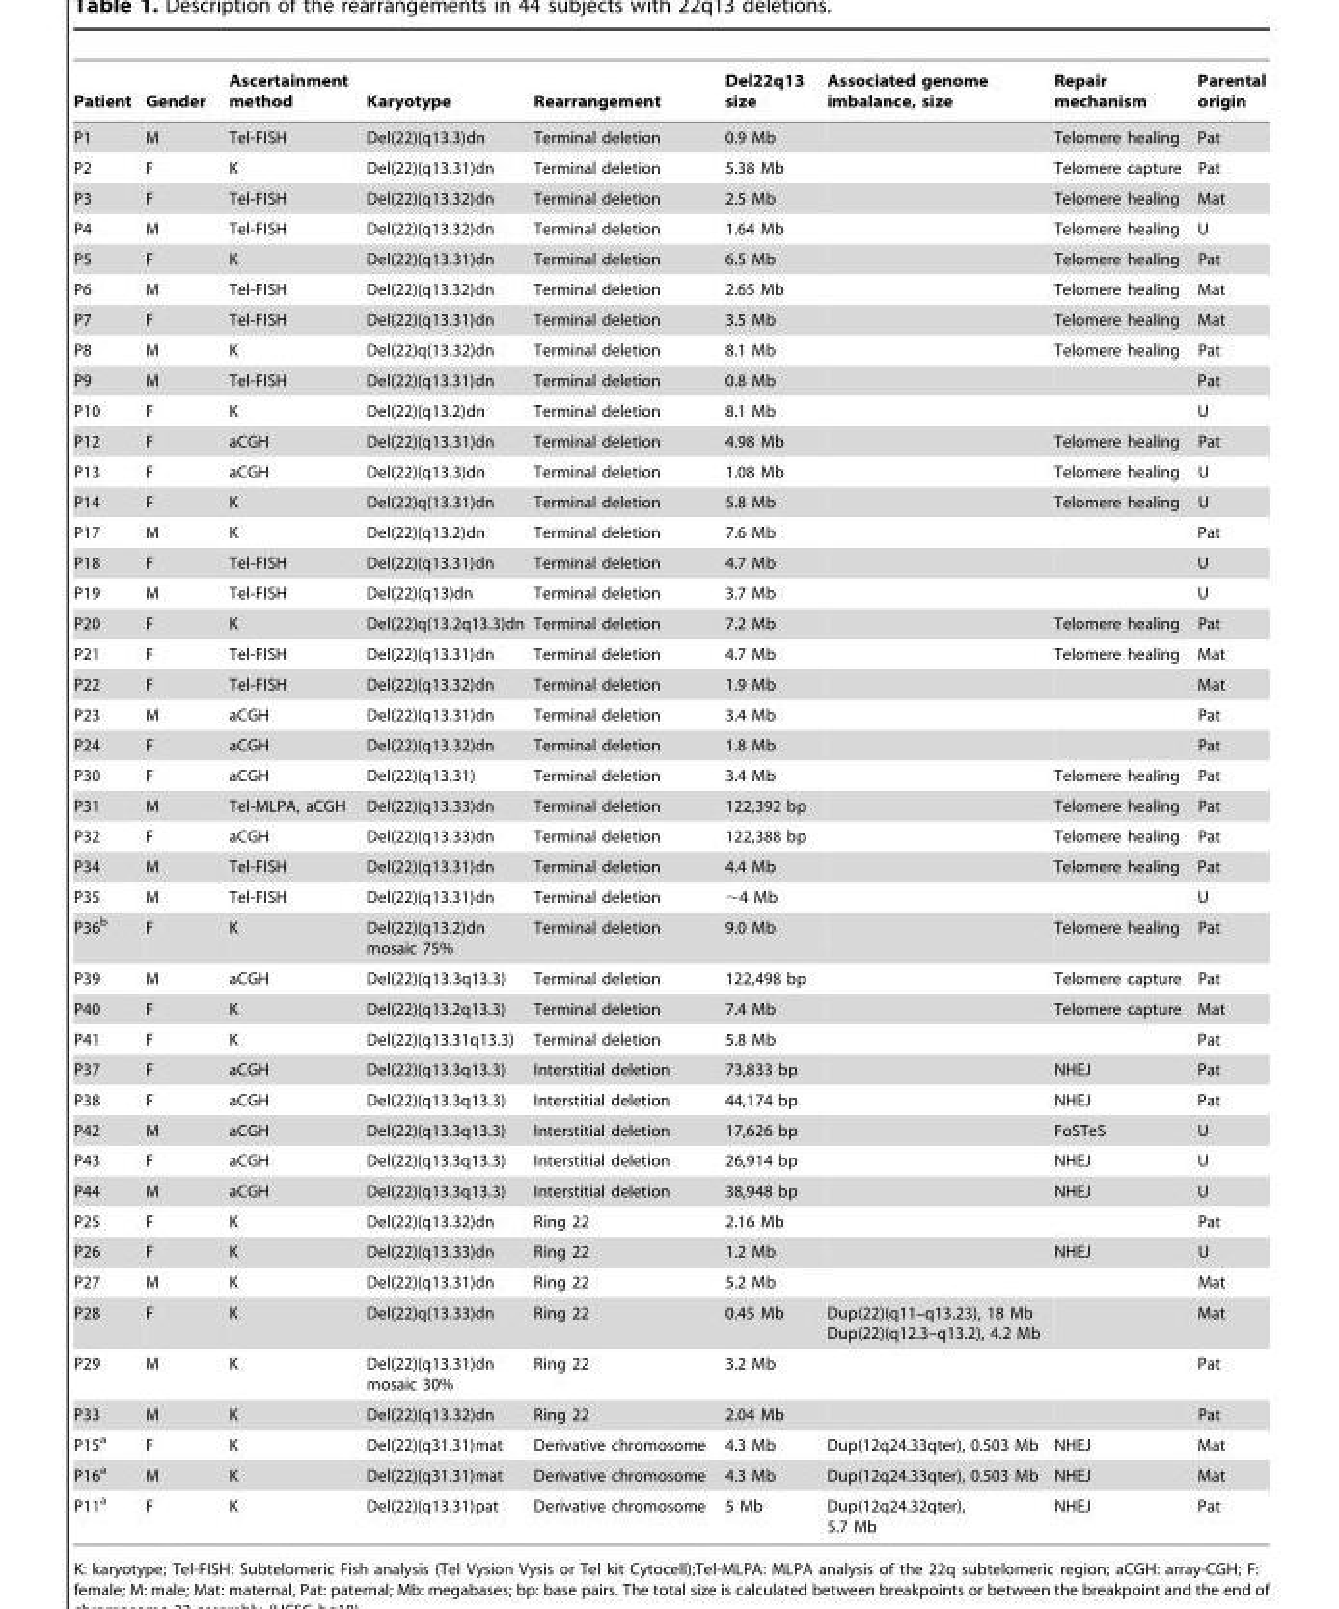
<table><thead><tr><td>Patient</td><td>Gender</td><td>Ascertainment method</td><td>Karyotype</td><td>Rearrangement</td><td>Del22q13 size</td><td>Associated genome imbalance, size</td><td>Repair mechanism</td><td>Parental origin</td></tr></thead><tbody><tr><td>P1</td><td>M</td><td>Tel-FISH</td><td>Del(22)(q13.3)dn</td><td>Terminal deletion</td><td>0.9 Mb</td><td></td><td>Telomere healing</td><td>Pat</td></tr><tr><td>P2</td><td>F</td><td>K</td><td>Del(22)(q13.31)dn</td><td>Terminal deletion</td><td>5.38 Mb</td><td></td><td>Telomere capture</td><td>Pat</td></tr><tr><td>P3</td><td>F</td><td>Tel-FISH</td><td>Del(22)(q13.32)dn</td><td>Terminal deletion</td><td>2.5 Mb</td><td></td><td>Telomere healing</td><td>Mat</td></tr><tr><td>P4</td><td>M</td><td>Tel-FISH</td><td>Del(22)(q13.32)dn</td><td>Terminal deletion</td><td>1.64 Mb</td><td></td><td>Telomere healing</td><td>U</td></tr><tr><td>P5</td><td>F</td><td>K</td><td>Del(22)(q13.31)dn</td><td>Terminal deletion</td><td>6.5 Mb</td><td></td><td>Telomere healing</td><td>Pat</td></tr><tr><td>P6</td><td>M</td><td>Tel-FISH</td><td>Del(22)(q13.32)dn</td><td>Terminal deletion</td><td>2.65 Mb</td><td></td><td>Telomere healing</td><td>Mat</td></tr><tr><td>P7</td><td>F</td><td>Tel-FISH</td><td>Del(22)(q13.31)dn</td><td>Terminal deletion</td><td>3.5 Mb</td><td></td><td>Telomere healing</td><td>Mat</td></tr><tr><td>P8</td><td>M</td><td>K</td><td>Del(22)q(13.32)dn</td><td>Terminal deletion</td><td>8.1 Mb</td><td></td><td>Telomere healing</td><td>Pat</td></tr><tr><td>P9</td><td>M</td><td>Tel-FISH</td><td>Del(22)(q13.31)dn</td><td>Terminal deletion</td><td>0.8 Mb</td><td></td><td></td><td>Pat</td></tr><tr><td>P10</td><td>F</td><td>K</td><td>Del(22)(q13.2)dn</td><td>Terminal deletion</td><td>8.1 Mb</td><td></td><td></td><td>U</td></tr><tr><td>P12</td><td>F</td><td>aCGH</td><td>Del(22)(q13.31)dn</td><td>Terminal deletion</td><td>4.98 Mb</td><td></td><td>Telomere healing</td><td>Pat</td></tr><tr><td>P13</td><td>F</td><td>aCGH</td><td>Del(22)(q13.3)dn</td><td>Terminal deletion</td><td>1.08 Mb</td><td></td><td>Telomere healing</td><td>U</td></tr><tr><td>P14</td><td>F</td><td>K</td><td>Del(22)q(13.31)dn</td><td>Terminal deletion</td><td>5.8 Mb</td><td></td><td>Telomere healing</td><td>U</td></tr><tr><td>P17</td><td>M</td><td>K</td><td>Del(22)(q13.2)dn</td><td>Terminal deletion</td><td>7.6 Mb</td><td></td><td></td><td>Pat</td></tr><tr><td>P18</td><td>F</td><td>Tel-FISH</td><td>Del(22)(q13.31)dn</td><td>Terminal deletion</td><td>4.7 Mb</td><td></td><td></td><td>U</td></tr><tr><td>P19</td><td>M</td><td>Tel-FISH</td><td>Del(22)(q13)dn</td><td>Terminal deletion</td><td>3.7 Mb</td><td></td><td></td><td>U</td></tr><tr><td>P20</td><td>F</td><td>K</td><td>Del(22)q(13.2q13.3)dn</td><td>Terminal deletion</td><td>7.2 Mb</td><td></td><td>Telomere healing</td><td>Pat</td></tr><tr><td>P21</td><td>F</td><td>Tel-FISH</td><td>Del(22)(q13.31)dn</td><td>Terminal deletion</td><td>4.7 Mb</td><td></td><td>Telomere healing</td><td>Mat</td></tr><tr><td>P22</td><td>F</td><td>Tel-FISH</td><td>Del(22)(q13.32)dn</td><td>Terminal deletion</td><td>1.9 Mb</td><td></td><td></td><td>Mat</td></tr><tr><td>P23</td><td>M</td><td>aCGH</td><td>Del(22)(q13.31)dn</td><td>Terminal deletion</td><td>3.4 Mb</td><td></td><td></td><td>Pat</td></tr><tr><td>P24</td><td>F</td><td>aCGH</td><td>Del(22)(q13.32)dn</td><td>Terminal deletion</td><td>1.8 Mb</td><td></td><td></td><td>Pat</td></tr><tr><td>P30</td><td>F</td><td>aCGH</td><td>Del(22)(q13.31)</td><td>Terminal deletion</td><td>3.4 Mb</td><td></td><td>Telomere healing</td><td>Pat</td></tr><tr><td>P31</td><td>M</td><td>Tel-MLPA, aCGH</td><td>Del(22)(q13.33)dn</td><td>Terminal deletion</td><td>122,392 bp</td><td></td><td>Telomere healing</td><td>Pat</td></tr><tr><td>P32</td><td>F</td><td>aCGH</td><td>Del(22)(q13.33)dn</td><td>Terminal deletion</td><td>122,388 bp</td><td></td><td>Telomere healing</td><td>Pat</td></tr><tr><td>P34</td><td>M</td><td>Tel-FISH</td><td>Del(22)(q13.31)dn</td><td>Terminal deletion</td><td>4.4 Mb</td><td></td><td>Telomere healing</td><td>Pat</td></tr><tr><td>P35</td><td>M</td><td>Tel-FISH</td><td>Del(22)(q13.31)dn</td><td>Terminal deletion</td><td>∼4 Mb</td><td></td><td></td><td>U</td></tr><tr><td>P36<sup>b</sup></td><td>F</td><td>K</td><td>Del(22)(q13.2)dn mosaic 75%</td><td>Terminal deletion</td><td>9.0 Mb</td><td></td><td>Telomere healing</td><td>Pat</td></tr><tr><td>P39</td><td>M</td><td>aCGH</td><td>Del(22)(q13.3q13.3)</td><td>Terminal deletion</td><td>122,498 bp</td><td></td><td>Telomere capture</td><td>Pat</td></tr><tr><td>P40</td><td>F</td><td>K</td><td>Del(22)(q13.2q13.3)</td><td>Terminal deletion</td><td>7.4 Mb</td><td></td><td>Telomere capture</td><td>Mat</td></tr><tr><td>P41</td><td>F</td><td>K</td><td>Del(22)(q13.31q13.3)</td><td>Terminal deletion</td><td>5.8 Mb</td><td></td><td></td><td>Pat</td></tr><tr><td>P37</td><td>F</td><td>aCGH</td><td>Del(22)(q13.3q13.3)</td><td>Interstitial deletion</td><td>73,833 bp</td><td></td><td>NHEJ</td><td>Pat</td></tr><tr><td>P38</td><td>F</td><td>aCGH</td><td>Del(22)(q13.3q13.3)</td><td>Interstitial deletion</td><td>44,174 bp</td><td></td><td>NHEJ</td><td>Pat</td></tr><tr><td>P42</td><td>M</td><td>aCGH</td><td>Del(22)(q13.3q13.3)</td><td>Interstitial deletion</td><td>17,626 bp</td><td></td><td>FoSTeS</td><td>U</td></tr><tr><td>P43</td><td>F</td><td>aCGH</td><td>Del(22)(q13.3q13.3)</td><td>Interstitial deletion</td><td>26,914 bp</td><td></td><td>NHEJ</td><td>U</td></tr><tr><td>P44</td><td>M</td><td>aCGH</td><td>Del(22)(q13.3q13.3)</td><td>Interstitial deletion</td><td>38,948 bp</td><td></td><td>NHEJ</td><td>U</td></tr><tr><td>P25</td><td>F</td><td>K</td><td>Del(22)(q13.32)dn</td><td>Ring 22</td><td>2.16 Mb</td><td></td><td></td><td>Pat</td></tr><tr><td>P26</td><td>F</td><td>K</td><td>Del(22)(q13.33)dn</td><td>Ring 22</td><td>1.2 Mb</td><td></td><td>NHEJ</td><td>U</td></tr><tr><td>P27</td><td>M</td><td>K</td><td>Del(22)(q13.31)dn</td><td>Ring 22</td><td>5.2 Mb</td><td></td><td></td><td>Mat</td></tr><tr><td>P28</td><td>F</td><td>K</td><td>Del(22)q(13.33)dn</td><td>Ring 22</td><td>0.45 Mb</td><td>Dup(22)(q11–q13.23), 18 Mb Dup(22)(q12.3–q13.2), 4.2 Mb</td><td></td><td>Mat</td></tr><tr><td>P29</td><td>M</td><td>K</td><td>Del(22)(q13.31)dn mosaic 30%</td><td>Ring 22</td><td>3.2 Mb</td><td></td><td></td><td>Pat</td></tr><tr><td>P33</td><td>M</td><td>K</td><td>Del(22)(q13.32)dn</td><td>Ring 22</td><td>2.04 Mb</td><td></td><td></td><td>Pat</td></tr><tr><td>P15<sup>a</sup></td><td>F</td><td>K</td><td>Del(22)(q31.31)mat</td><td>Derivative chromosome</td><td>4.3 Mb</td><td>Dup(12q24.33qter), 0.503 Mb</td><td>NHEJ</td><td>Mat</td></tr><tr><td>P16<sup>a</sup></td><td>M</td><td>K</td><td>Del(22)(q31.31)mat</td><td>Derivative chromosome</td><td>4.3 Mb</td><td>Dup(12q24.33qter), 0.503 Mb</td><td>NHEJ</td><td>Mat</td></tr><tr><td>P11<sup>a</sup></td><td>F</td><td>K</td><td>Del(22)(q13.31)pat</td><td>Derivative chromosome</td><td>5 Mb</td><td>Dup(12q24.32qter), 5.7 Mb</td><td>NHEJ</td><td>Pat</td></tr></tbody></table>